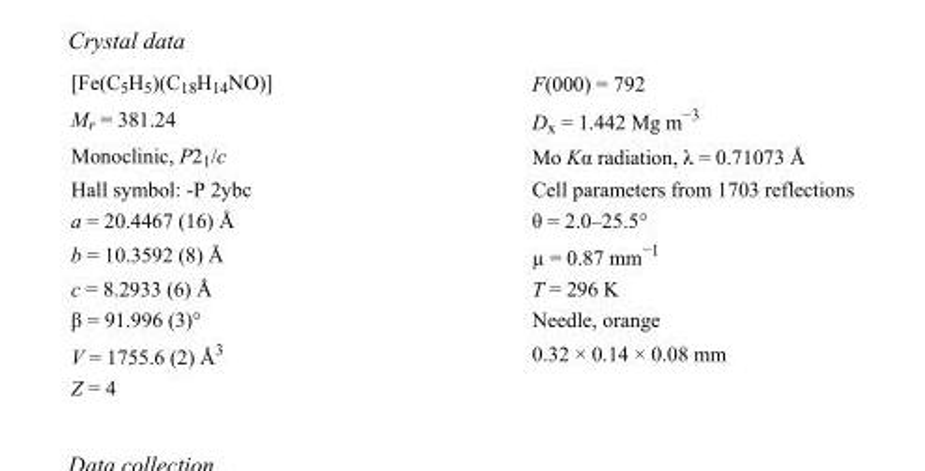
<table><tbody><tr><td>[Fe(C<sub>5</sub>H<sub>5</sub>)(C<sub>18</sub>H<sub>14</sub>NO)]</td><td>F(000) = 792</td></tr><tr><td>M<sub>r</sub> = 381.24</td><td>D<sub>x</sub> = 1.442 Mg m<sup>−3</sup></td></tr><tr><td>Monoclinic, P2<sub>1</sub>/c</td><td>Mo Kα radiation, λ = 0.71073 Å</td></tr><tr><td>Hall symbol: -P 2ybc</td><td>Cell parameters from 1703 reflections</td></tr><tr><td>a = 20.4467 (16) Å</td><td>θ = 2.0–25.5°</td></tr><tr><td>b = 10.3592 (8) Å</td><td>µ = 0.87 mm<sup>−1</sup></td></tr><tr><td>c = 8.2933 (6) Å</td><td>T = 296 K</td></tr><tr><td>β = 91.996 (3)°</td><td>Needle, orange</td></tr><tr><td>V = 1755.6 (2) Å<sup>3</sup></td><td>0.32 × 0.14 × 0.08 mm</td></tr><tr><td>Z = 4</td><td></td></tr></tbody></table>